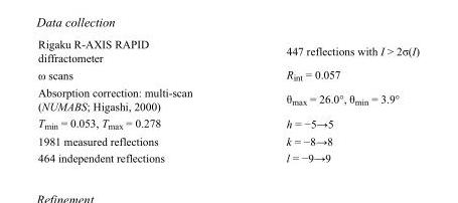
<table><tbody><tr><td>Rigaku R-AXIS RAPID diffractometer</td><td>447 reflections with I &gt; 2σ(I)</td></tr><tr><td>ω scans</td><td>R<sub>int</sub> = 0.057</td></tr><tr><td>Absorption correction: multi-scan (NUMABS; Higashi, 2000)</td><td>θ<sub>max</sub> = 26.0°, θ<sub>min</sub> = 3.9°</td></tr><tr><td>T<sub>min</sub> = 0.053, T<sub>max</sub> = 0.278</td><td>h = −5→5</td></tr><tr><td>1981 measured reflections</td><td>k = −8→8</td></tr><tr><td>464 independent reflections</td><td>l = −9→9</td></tr></tbody></table>